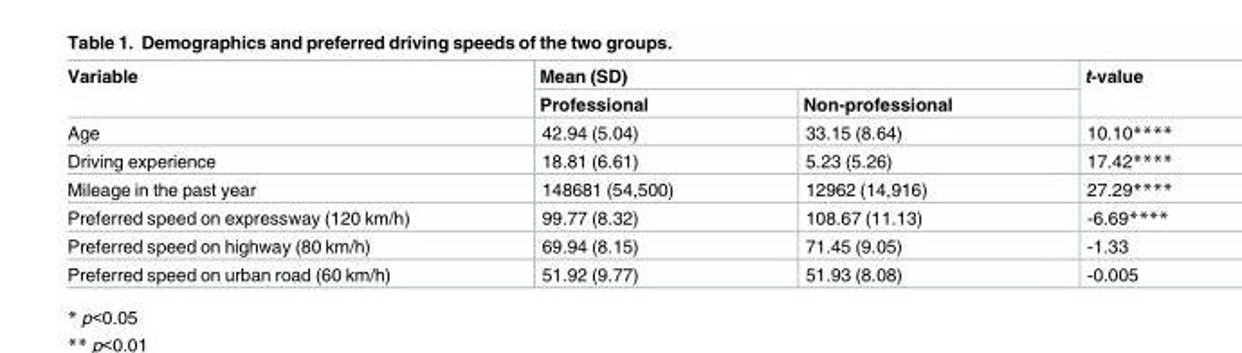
<table><thead><tr><td rowspan="2">Variable</td><td colspan="2">Mean (SD)</td><td rowspan="2">t-value</td></tr><tr><td>Professional</td><td>Non-professional</td></tr></thead><tbody><tr><td>Age</td><td>42.94 (5.04)</td><td>33.15 (8.64)</td><td>10.10****</td></tr><tr><td>Driving experience</td><td>18.81 (6.61)</td><td>5.23 (5.26)</td><td>17.42****</td></tr><tr><td>Mileage in the past year</td><td>148681 (54,500)</td><td>12962 (14,916)</td><td>27.29****</td></tr><tr><td>Preferred speed on expressway (120 km/h)</td><td>99.77 (8.32)</td><td>108.67 (11.13)</td><td>-6.69****</td></tr><tr><td>Preferred speed on highway (80 km/h)</td><td>69.94 (8.15)</td><td>71.45 (9.05)</td><td>-1.33</td></tr><tr><td>Preferred speed on urban road (60 km/h)</td><td>51.92 (9.77)</td><td>51.93 (8.08)</td><td>-0.005</td></tr></tbody></table>